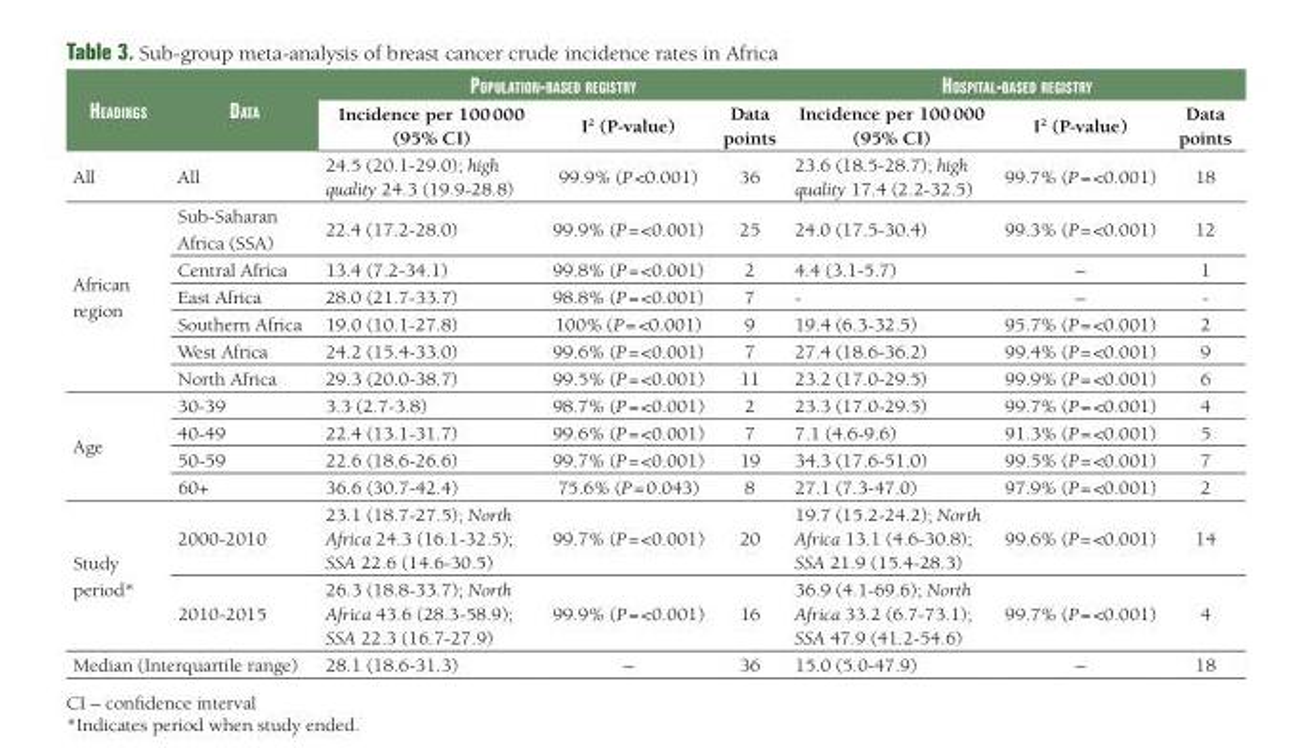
<table><thead><tr><td rowspan="2">headiNgS</td><td rowspan="2">data</td><td colspan="3">populatioN-baSed regiStry</td><td colspan="3">hoSpital-baSed regiStry</td></tr><tr><td>Incidence per 100 000 (95% CI)</td><td>I<sup>2</sup> (P-value)</td><td>Data points</td><td>Incidence per 100 000 (95% CI)</td><td>I<sup>2</sup> (P-value)</td><td>Data points</td></tr></thead><tbody><tr><td>All</td><td>All</td><td>24.5 (20.1-29.0); high quality 24.3 (19.9-28.8)</td><td>99.9% (P &lt;0.001)</td><td>36</td><td>23.6 (18.5-28.7); high quality 17.4 (2.2-32.5)</td><td>99.7% (P = &lt;0.001)</td><td>18</td></tr><tr><td rowspan="6">African region</td><td>Sub-Saharan Africa (SSA)</td><td>22.4 (17.2-28.0)</td><td>99.9% (P = &lt;0.001)</td><td>25</td><td>24.0 (17.5-30.4)</td><td>99.3% (P = &lt;0.001)</td><td>12</td></tr><tr><td>Central Africa</td><td>13.4 (7.2-34.1)</td><td>99.8% (P = &lt;0.001)</td><td>2</td><td>4.4 (3.1-5.7)</td><td>–</td><td>1</td></tr><tr><td>East Africa</td><td>28.0 (21.7-33.7)</td><td>98.8% (P = &lt;0.001)</td><td>7</td><td>-</td><td>–</td><td>-</td></tr><tr><td>Southern Africa</td><td>19.0 (10.1-27.8)</td><td>100% (P = &lt;0.001)</td><td>9</td><td>19.4 (6.3-32.5)</td><td>95.7% (P = &lt;0.001)</td><td>2</td></tr><tr><td>West Africa</td><td>24.2 (15.4-33.0)</td><td>99.6% (P = &lt;0.001)</td><td>7</td><td>27.4 (18.6-36.2)</td><td>99.4% (P = &lt;0.001)</td><td>9</td></tr><tr><td>North Africa</td><td>29.3 (20.0-38.7)</td><td>99.5% (P = &lt;0.001)</td><td>11</td><td>23.2 (17.0-29.5)</td><td>99.9% (P = &lt;0.001)</td><td>6</td></tr><tr><td rowspan="4">Age</td><td>30-39</td><td>3.3 (2.7-3.8)</td><td>98.7% (P = &lt;0.001)</td><td>2</td><td>23.3 (17.0-29.5)</td><td>99.7% (P = &lt;0.001)</td><td>4</td></tr><tr><td>40-49</td><td>22.4 (13.1-31.7)</td><td>99.6% (P = &lt;0.001)</td><td>7</td><td>7.1 (4.6-9.6)</td><td>91.3% (P = &lt;0.001)</td><td>5</td></tr><tr><td>50-59</td><td>22.6 (18.6-26.6)</td><td>99.7% (P = &lt;0.001)</td><td>19</td><td>34.3 (17.6-51.0)</td><td>99.5% (P = &lt;0.001)</td><td>7</td></tr><tr><td>60+</td><td>36.6 (30.7-42.4)</td><td>75.6% (P = 0.043)</td><td>8</td><td>27.1 (7.3-47.0)</td><td>97.9% (P = &lt;0.001)</td><td>2</td></tr><tr><td rowspan="2">Study period*</td><td>2000-2010</td><td>23.1 (18.7-27.5); North Africa 24.3 (16.1-32.5); SSA 22.6 (14.6-30.5)</td><td>99.7% (P = &lt;0.001)</td><td>20</td><td>19.7 (15.2-24.2); North Africa 13.1 (4.6-30.8); SSA 21.9 (15.4-28.3)</td><td>99.6% (P = &lt;0.001)</td><td>14</td></tr><tr><td>2010-2015</td><td>26.3 (18.8-33.7); North Africa 43.6 (28.3-58.9); SSA 22.3 (16.7-27.9)</td><td>99.9% (P = &lt;0.001)</td><td>16</td><td>36.9 (4.1-69.6); North Africa 33.2 (6.7-73.1); SSA 47.9 (41.2-54.6)</td><td>99.7% (P = &lt;0.001)</td><td>4</td></tr><tr><td colspan="2">Median (Interquartile range)</td><td>28.1 (18.6-31.3)</td><td>–</td><td>36</td><td>15.0 (5.0-47.9)</td><td>–</td><td>18</td></tr></tbody></table>